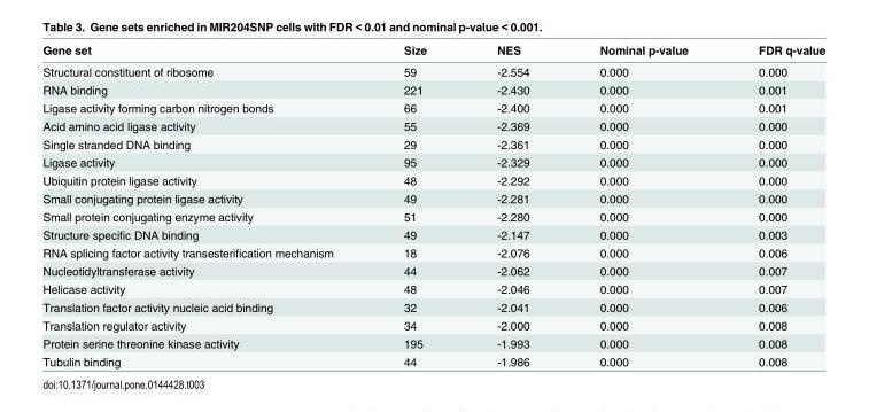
<table><thead><tr><td>Gene set</td><td>Size</td><td>NES</td><td>Nominal p-value</td><td>FDR q-value</td></tr></thead><tbody><tr><td>Structural constituent of ribosome</td><td>59</td><td>-2.554</td><td>0.000</td><td>0.000</td></tr><tr><td>RNA binding</td><td>221</td><td>-2.430</td><td>0.000</td><td>0.001</td></tr><tr><td>Ligase activity forming carbon nitrogen bonds</td><td>66</td><td>-2.400</td><td>0.000</td><td>0.001</td></tr><tr><td>Acid amino acid ligase activity</td><td>55</td><td>-2.369</td><td>0.000</td><td>0.000</td></tr><tr><td>Single stranded DNA binding</td><td>29</td><td>-2.361</td><td>0.000</td><td>0.000</td></tr><tr><td>Ligase activity</td><td>95</td><td>-2.329</td><td>0.000</td><td>0.000</td></tr><tr><td>Ubiquitin protein ligase activity</td><td>48</td><td>-2.292</td><td>0.000</td><td>0.000</td></tr><tr><td>Small conjugating protein ligase activity</td><td>49</td><td>-2.281</td><td>0.000</td><td>0.000</td></tr><tr><td>Small protein conjugating enzyme activity</td><td>51</td><td>-2.280</td><td>0.000</td><td>0.000</td></tr><tr><td>Structure specific DNA binding</td><td>49</td><td>-2.147</td><td>0.000</td><td>0.003</td></tr><tr><td>RNA splicing factor activity transesterification mechanism</td><td>18</td><td>-2.076</td><td>0.000</td><td>0.006</td></tr><tr><td>Nucleotidyltransferase activity</td><td>44</td><td>-2.062</td><td>0.000</td><td>0.007</td></tr><tr><td>Helicase activity</td><td>48</td><td>-2.046</td><td>0.000</td><td>0.007</td></tr><tr><td>Translation factor activity nucleic acid binding</td><td>32</td><td>-2.041</td><td>0.000</td><td>0.006</td></tr><tr><td>Translation regulator activity</td><td>34</td><td>-2.000</td><td>0.000</td><td>0.008</td></tr><tr><td>Protein serine threonine kinase activity</td><td>195</td><td>-1.993</td><td>0.000</td><td>0.008</td></tr><tr><td>Tubulin binding</td><td>44</td><td>-1.986</td><td>0.000</td><td>0.008</td></tr></tbody></table>